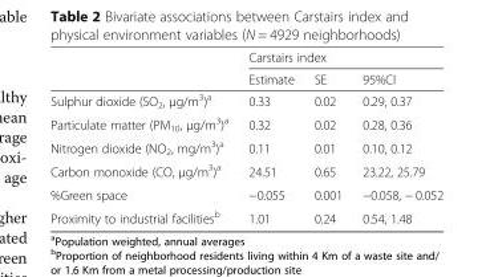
<table><thead><tr><td rowspan="2"></td><td colspan="3">Carstairs index</td></tr><tr><td>Estimate</td><td>SE</td><td>95%CI</td></tr></thead><tbody><tr><td>Sulphur dioxide (SO<sub>2</sub>, μg/m<sup>3</sup>)<sup>a</sup></td><td>0.33</td><td>0.02</td><td>0.29, 0.37</td></tr><tr><td>Particulate matter (PM<sub>10</sub>, μg/m<sup>3</sup>)<sup>a</sup></td><td>0.32</td><td>0.02</td><td>0.28, 0.36</td></tr><tr><td>Nitrogen dioxide (NO<sub>2</sub>, mg/m<sup>3</sup>)<sup>a</sup></td><td>0.11</td><td>0.01</td><td>0.10, 0.12</td></tr><tr><td>Carbon monoxide (CO, μg/m<sup>3</sup>)<sup>a</sup></td><td>24.51</td><td>0.65</td><td>23.22, 25.79</td></tr><tr><td>%Green space</td><td>−0.055</td><td>0.001</td><td>−0.058, − 0.052</td></tr><tr><td>Proximity to industrial facilities<sup>b</sup></td><td>1.01</td><td>0.24</td><td>0.54, 1.48</td></tr></tbody></table>